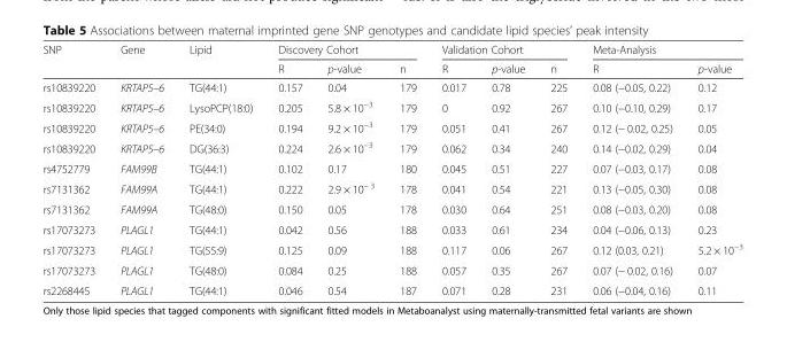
<table><thead><tr><td rowspan="2">SNP</td><td rowspan="2">Gene</td><td rowspan="2">Lipid</td><td colspan="3">Discovery Cohort</td><td colspan="3">Validation Cohort</td><td colspan="2">Meta-Analysis</td></tr><tr><td>R</td><td>p-value</td><td>n</td><td>R</td><td>p-value</td><td>n</td><td>R</td><td>p-value</td></tr></thead><tbody><tr><td>rs10839220</td><td>KRTAP5–6</td><td>TG(44:1)</td><td>0.157</td><td>0.04</td><td>179</td><td>0.017</td><td>0.78</td><td>225</td><td>0.08 (−0.05, 0.22)</td><td>0.12</td></tr><tr><td>rs10839220</td><td>KRTAP5–6</td><td>LysoPCP(18:0)</td><td>0.205</td><td>5.8 × 10<sup>−3</sup></td><td>179</td><td>0</td><td>0.92</td><td>267</td><td>0.10 (−0.10, 0.29)</td><td>0.17</td></tr><tr><td>rs10839220</td><td>KRTAP5–6</td><td>PE(34:0)</td><td>0.194</td><td>9.2 × 10<sup>−3</sup></td><td>179</td><td>0.051</td><td>0.41</td><td>267</td><td>0.12 (− 0.02, 0.25)</td><td>0.05</td></tr><tr><td>rs10839220</td><td>KRTAP5–6</td><td>DG(36:3)</td><td>0.224</td><td>2.6 × 10<sup>−3</sup></td><td>179</td><td>0.062</td><td>0.34</td><td>240</td><td>0.14 (−0.02, 0.29)</td><td>0.04</td></tr><tr><td>rs4752779</td><td>FAM99B</td><td>TG(44:1)</td><td>0.102</td><td>0.17</td><td>180</td><td>0.045</td><td>0.51</td><td>227</td><td>0.07 (−0.03, 0.17)</td><td>0.08</td></tr><tr><td>rs7131362</td><td>FAM99A</td><td>TG(44:1)</td><td>0.222</td><td>2.9 × 10<sup>− 3</sup></td><td>178</td><td>0.041</td><td>0.54</td><td>221</td><td>0.13 (−0.05, 0.30)</td><td>0.08</td></tr><tr><td>rs7131362</td><td>FAM99A</td><td>TG(48:0)</td><td>0.150</td><td>0.05</td><td>178</td><td>0.030</td><td>0.64</td><td>251</td><td>0.08 (−0.03, 0.20)</td><td>0.08</td></tr><tr><td>rs17073273</td><td>PLAGL1</td><td>TG(44:1)</td><td>0.042</td><td>0.56</td><td>188</td><td>0.033</td><td>0.61</td><td>234</td><td>0.04 (−0.06, 0.13)</td><td>0.23</td></tr><tr><td>rs17073273</td><td>PLAGL1</td><td>TG(55:9)</td><td>0.125</td><td>0.09</td><td>188</td><td>0.117</td><td>0.06</td><td>267</td><td>0.12 (0.03, 0.21)</td><td>5.2 × 10<sup>−3</sup></td></tr><tr><td>rs17073273</td><td>PLAGL1</td><td>TG(48:0)</td><td>0.084</td><td>0.25</td><td>188</td><td>0.057</td><td>0.35</td><td>267</td><td>0.07 (− 0.02, 0.16)</td><td>0.07</td></tr><tr><td>rs2268445</td><td>PLAGL1</td><td>TG(44:1)</td><td>0.046</td><td>0.54</td><td>187</td><td>0.071</td><td>0.28</td><td>231</td><td>0.06 (−0.04, 0.16)</td><td>0.11</td></tr></tbody></table>